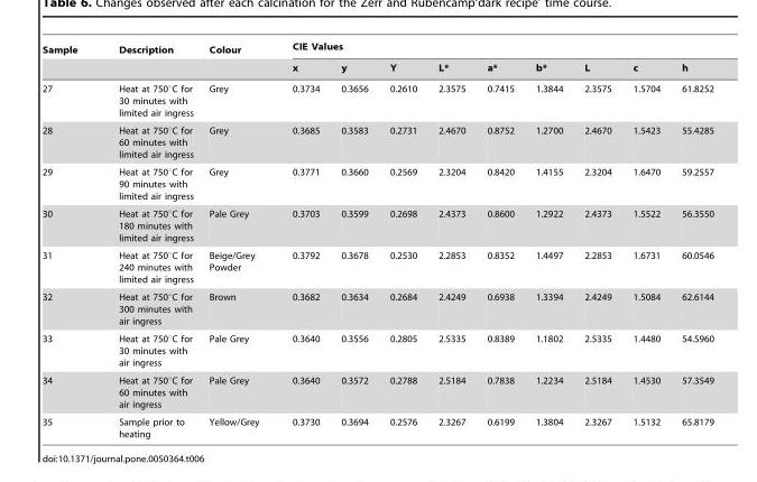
<table><thead><tr><td rowspan="2">Sample</td><td rowspan="2">Description</td><td rowspan="2">Colour</td><td colspan="9">CIE Values</td></tr><tr><td>x</td><td>y</td><td>Y</td><td>L*</td><td>a*</td><td>b*</td><td>L</td><td>c</td><td>h</td></tr></thead><tbody><tr><td>27</td><td>Heat at 750°C for 30 minutes with limited air ingress</td><td>Grey</td><td>0.3734</td><td>0.3656</td><td>0.2610</td><td>2.3575</td><td>0.7415</td><td>1.3844</td><td>2.3575</td><td>1.5704</td><td>61.8252</td></tr><tr><td>28</td><td>Heat at 750°C for 60 minutes with limited air ingress</td><td>Grey</td><td>0.3685</td><td>0.3583</td><td>0.2731</td><td>2.4670</td><td>0.8752</td><td>1.2700</td><td>2.4670</td><td>1.5423</td><td>55.4285</td></tr><tr><td>29</td><td>Heat at 750°C for 90 minutes with limited air ingress</td><td>Grey</td><td>0.3771</td><td>0.3660</td><td>0.2569</td><td>2.3204</td><td>0.8420</td><td>1.4155</td><td>2.3204</td><td>1.6470</td><td>59.2557</td></tr><tr><td>30</td><td>Heat at 750°C for 180 minutes with limited air ingress</td><td>Pale Grey</td><td>0.3703</td><td>0.3599</td><td>0.2698</td><td>2.4373</td><td>0.8600</td><td>1.2922</td><td>2.4373</td><td>1.5522</td><td>56.3550</td></tr><tr><td>31</td><td>Heat at 750°C for 240 minutes with limited air ingress</td><td>Beige/Grey Powder</td><td>0.3792</td><td>0.3678</td><td>0.2530</td><td>2.2853</td><td>0.8352</td><td>1.4497</td><td>2.2853</td><td>1.6731</td><td>60.0546</td></tr><tr><td>32</td><td>Heat at 750°C for 300 minutes with air ingress</td><td>Brown</td><td>0.3682</td><td>0.3634</td><td>0.2684</td><td>2.4249</td><td>0.6938</td><td>1.3394</td><td>2.4249</td><td>1.5084</td><td>62.6144</td></tr><tr><td>33</td><td>Heat at 750°C for 30 minutes with air ingress</td><td>Pale Grey</td><td>0.3640</td><td>0.3556</td><td>0.2805</td><td>2.5335</td><td>0.8389</td><td>1.1802</td><td>2.5335</td><td>1.4480</td><td>54.5960</td></tr><tr><td>34</td><td>Heat at 750°C for 60 minutes with air ingress</td><td>Pale Grey</td><td>0.3640</td><td>0.3572</td><td>0.2788</td><td>2.5184</td><td>0.7838</td><td>1.2234</td><td>2.5184</td><td>1.4530</td><td>57.3549</td></tr><tr><td>35</td><td>Sample prior to heating</td><td>Yellow/Grey</td><td>0.3730</td><td>0.3694</td><td>0.2576</td><td>2.3267</td><td>0.6199</td><td>1.3804</td><td>2.3267</td><td>1.5132</td><td>65.8179</td></tr></tbody></table>